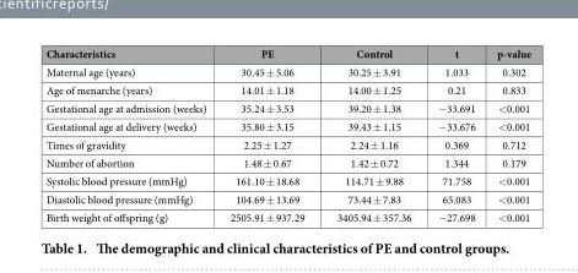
<table><thead><tr><td>Characteristics</td><td>PE</td><td>Control</td><td>t</td><td>p-value</td></tr></thead><tbody><tr><td>Maternal age (years)</td><td>30.45 ± 5.06</td><td>30.25 ± 3.91</td><td>1.033</td><td>0.302</td></tr><tr><td>Age of menarche (years)</td><td>14.01 ± 1.18</td><td>14.00 ± 1.25</td><td>0.21</td><td>0.833</td></tr><tr><td>Gestational age at admission (weeks)</td><td>35.24 ± 3.53</td><td>39.20 ± 1.38</td><td>− 33.691</td><td>&lt; 0.001</td></tr><tr><td>Gestational age at delivery (weeks)</td><td>35.80 ± 3.15</td><td>39.43 ± 1.15</td><td>− 33.676</td><td>&lt; 0.001</td></tr><tr><td>Times of gravidity</td><td>2.25 ± 1.27</td><td>2.24 ± 1.16</td><td>0.369</td><td>0.712</td></tr><tr><td>Number of abortion</td><td>1.48 ± 0.67</td><td>1.42 ± 0.72</td><td>1.344</td><td>0.179</td></tr><tr><td>Systolic blood pressure (mmHg)</td><td>161.10 ± 18.68</td><td>114.71 ± 9.88</td><td>71.758</td><td>&lt; 0.001</td></tr><tr><td>Diastolic blood pressure (mmHg)</td><td>104.69 ± 13.69</td><td>73.44 ± 7.83</td><td>65.083</td><td>&lt; 0.001</td></tr><tr><td>Birth weight of offspring (g)</td><td>2505.91 ± 937.29</td><td>3405.94 ± 357.36</td><td>− 27.698</td><td>&lt; 0.001</td></tr></tbody></table>